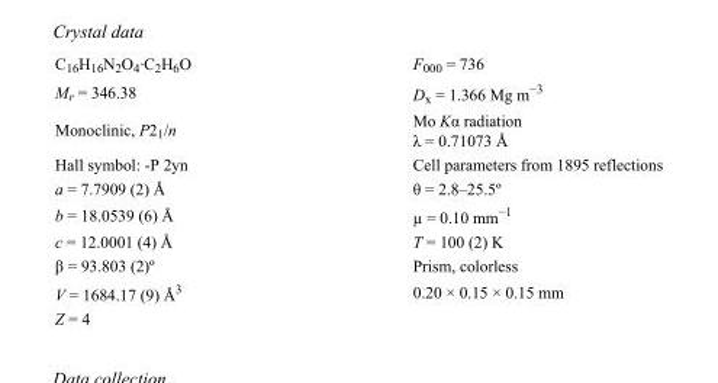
<table><tbody><tr><td>C<sub>16</sub>H<sub>16</sub>N<sub>2</sub>O<sub>4</sub>·C<sub>2</sub>H<sub>6</sub>O</td><td>F<sub>000</sub> = 736</td></tr><tr><td>M<sub>r</sub> = 346.38</td><td>D<sub>x</sub> = 1.366 Mg m<sup>−3</sup></td></tr><tr><td>Monoclinic, P2<sub>1</sub>/n</td><td>Mo Kα radiation λ = 0.71073 Å</td></tr><tr><td>Hall symbol: -P 2yn</td><td>Cell parameters from 1895 reflections</td></tr><tr><td>a = 7.7909 (2) Å</td><td>θ = 2.8–25.5º</td></tr><tr><td>b = 18.0539 (6) Å</td><td>µ = 0.10 mm<sup>−1</sup></td></tr><tr><td>c = 12.0001 (4) Å</td><td>T = 100 (2) K</td></tr><tr><td>β = 93.803 (2)º</td><td>Prism, colorless</td></tr><tr><td>V = 1684.17 (9) Å<sup>3</sup></td><td>0.20 × 0.15 × 0.15 mm</td></tr><tr><td>Z = 4</td><td></td></tr></tbody></table>